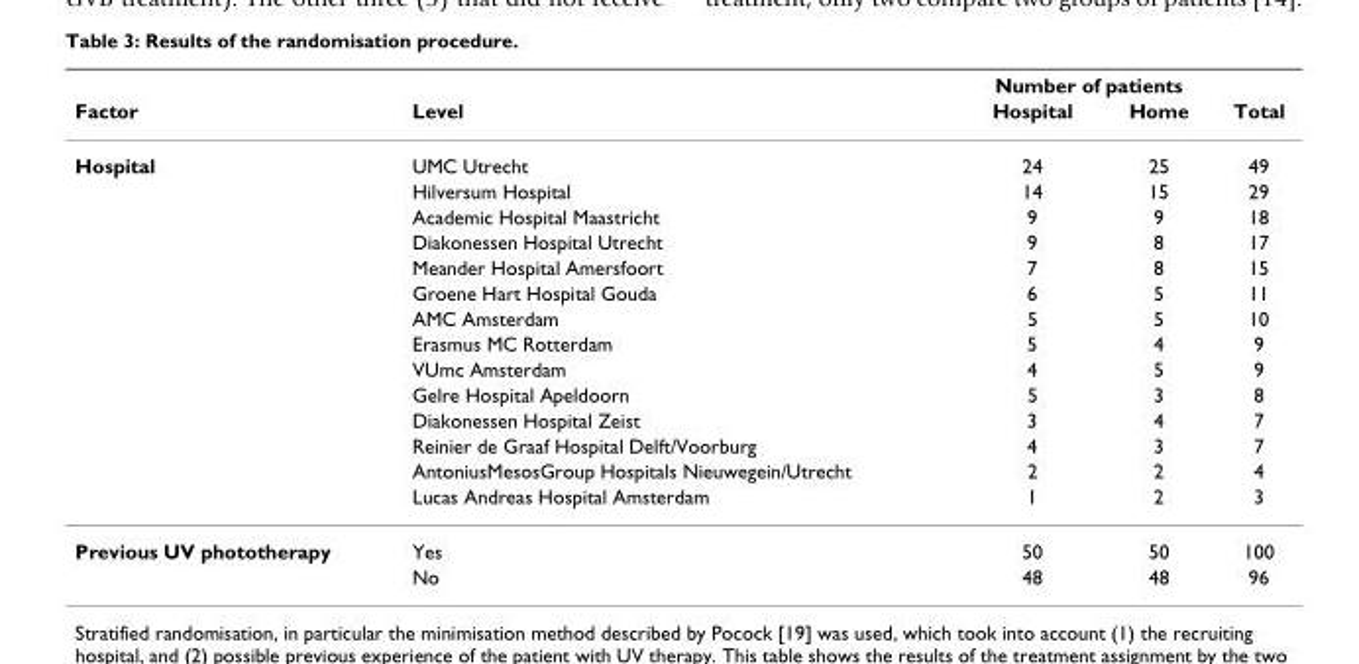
<table><thead><tr><td rowspan="2">Factor</td><td rowspan="2">Level</td><td colspan="2">Number of patients</td><td rowspan="2">Total</td></tr><tr><td>Hospital</td><td>Home</td></tr></thead><tbody><tr><td rowspan="14">Hospital</td><td>UMC Utrecht</td><td>24</td><td>25</td><td>49</td></tr><tr><td>Hilversum Hospital</td><td>14</td><td>15</td><td>29</td></tr><tr><td>Academic Hospital Maastricht</td><td>9</td><td>9</td><td>18</td></tr><tr><td>Diakonessen Hospital Utrecht</td><td>9</td><td>8</td><td>17</td></tr><tr><td>Meander Hospital Amersfoort</td><td>7</td><td>8</td><td>15</td></tr><tr><td>Groene Hart Hospital Gouda</td><td>6</td><td>5</td><td>11</td></tr><tr><td>AMC Amsterdam</td><td>5</td><td>5</td><td>10</td></tr><tr><td>Erasmus MC Rotterdam</td><td>5</td><td>4</td><td>9</td></tr><tr><td>VUmc Amsterdam</td><td>4</td><td>5</td><td>9</td></tr><tr><td>Gelre Hospital Apeldoorn</td><td>5</td><td>3</td><td>8</td></tr><tr><td>Diakonessen Hospital Zeist</td><td>3</td><td>4</td><td>7</td></tr><tr><td>Reinier de Graaf Hospital Delft/Voorburg</td><td>4</td><td>3</td><td>7</td></tr><tr><td>AntoniusMesosGroup Hospitals Nieuwegein/Utrecht</td><td>2</td><td>2</td><td>4</td></tr><tr><td>Lucas Andreas Hospital Amsterdam</td><td>1</td><td>2</td><td>3</td></tr><tr><td rowspan="2">Previous UV phototherapy</td><td>Yes</td><td>50</td><td>50</td><td>100</td></tr><tr><td>No</td><td>48</td><td>48</td><td>96</td></tr></tbody></table>